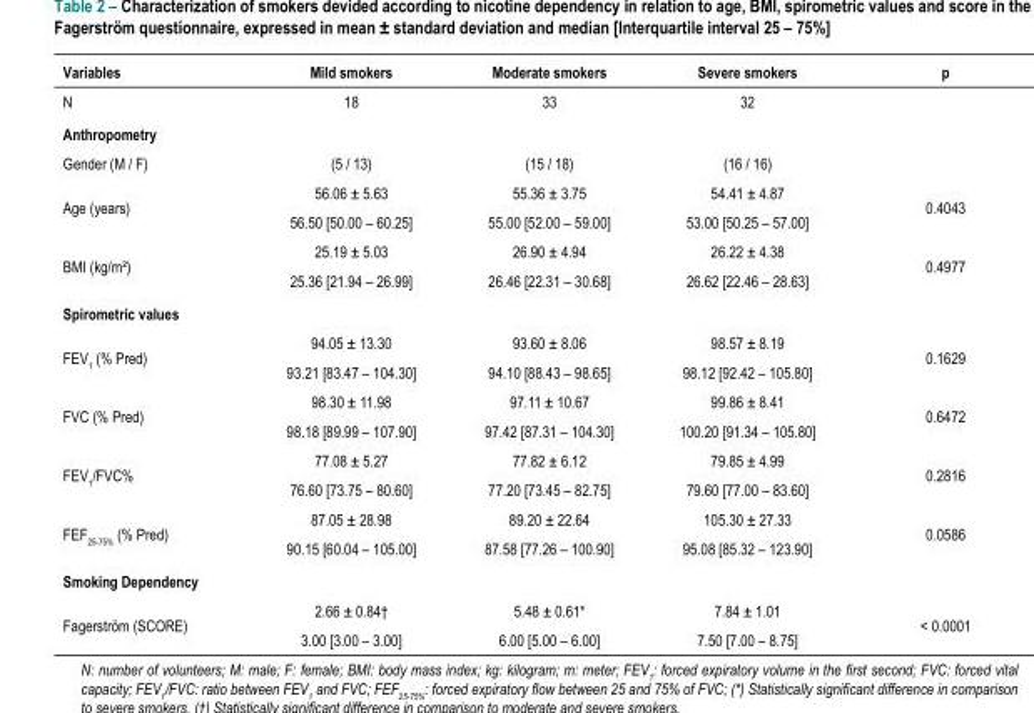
<table><thead><tr><td>Variables</td><td>Mild smokers</td><td>Moderate smokers</td><td>Severe smokers</td><td>p</td></tr></thead><tbody><tr><td>N</td><td>18</td><td>33</td><td>32</td><td></td></tr><tr><td colspan="5">Anthropometry</td></tr><tr><td>Gender (M / F)</td><td>(5 / 13)</td><td>(15 / 18)</td><td>(16 / 16)</td><td></td></tr><tr><td rowspan="2">Age (years)</td><td>56.06 ± 5.63</td><td>55.36 ± 3.75</td><td>54.41 ± 4.87</td><td rowspan="2">0.4043</td></tr><tr><td>56.50 [50.00 – 60.25]</td><td>55.00 [52.00 – 59.00]</td><td>53.00 [50.25 – 57.00]</td></tr><tr><td rowspan="2">BMI (kg/m²)</td><td>25.19 ± 5.03</td><td>26.90 ± 4.94</td><td>26.22 ± 4.38</td><td rowspan="2">0.4977</td></tr><tr><td>25.36 [21.94 – 26.99]</td><td>26.46 [22.31 – 30.68]</td><td>26.62 [22.46 – 28.63]</td></tr><tr><td colspan="5">Spirometric values</td></tr><tr><td rowspan="2">FEV<sub>1</sub> (% Pred)</td><td>94.05 ± 13.30</td><td>93.60 ± 8.06</td><td>98.57 ± 8.19</td><td rowspan="2">0.1629</td></tr><tr><td>93.21 [83.47 – 104.30]</td><td>94.10 [88.43 – 98.65]</td><td>98.12 [92.42 – 105.80]</td></tr><tr><td rowspan="2">FVC (% Pred)</td><td>98.30 ± 11.98</td><td>97.11 ± 10.67</td><td>99.86 ± 8.41</td><td rowspan="2">0.6472</td></tr><tr><td>98.18 [89.99 – 107.90]</td><td>97.42 [87.31 – 104.30]</td><td>100.20 [91.34 – 105.80]</td></tr><tr><td rowspan="2">FEV<sub>1</sub>/FVC%</td><td>77.08 ± 5.27</td><td>77.82 ± 6.12</td><td>79.85 ± 4.99</td><td rowspan="2">0.2816</td></tr><tr><td>76.60 [73.75 – 80.60]</td><td>77.20 [73.45 – 82.75]</td><td>79.60 [77.00 – 83.60]</td></tr><tr><td rowspan="2">FEF<sub>25-75%</sub> (% Pred)</td><td>87.05 ± 28.98</td><td>89.20 ± 22.64</td><td>105.30 ± 27.33</td><td rowspan="2">0.0586</td></tr><tr><td>90.15 [60.04 – 105.00]</td><td>87.58 [77.26 – 100.90]</td><td>95.08 [85.32 – 123.90]</td></tr><tr><td colspan="5">Smoking Dependency</td></tr><tr><td rowspan="2">Fagerström (SCORE)</td><td>2.66 ± 0.84†</td><td>5.48 ± 0.61*</td><td>7.84 ± 1.01</td><td rowspan="2">&lt; 0.0001</td></tr><tr><td>3.00 [3.00 – 3.00]</td><td>6.00 [5.00 – 6.00]</td><td>7.50 [7.00 – 8.75]</td></tr></tbody></table>